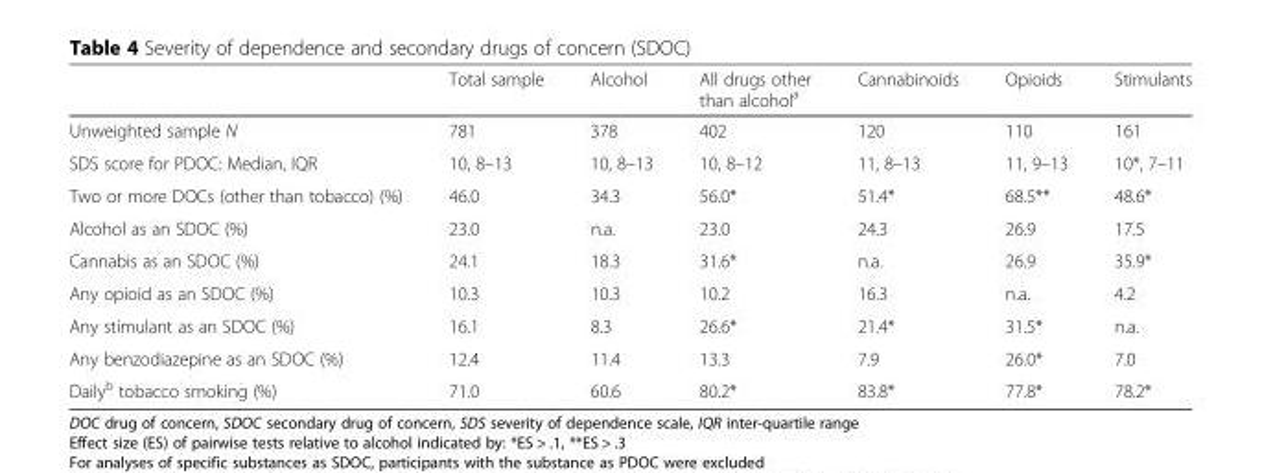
<table><thead><tr><td></td><td>Total sample</td><td>Alcohol</td><td>All drugs other than alcohol<sup>a</sup></td><td>Cannabinoids</td><td>Opioids</td><td>Stimulants</td></tr></thead><tbody><tr><td>Unweighted sample N</td><td>781</td><td>378</td><td>402</td><td>120</td><td>110</td><td>161</td></tr><tr><td>SDS score for PDOC: Median, IQR</td><td>10, 8–13</td><td>10, 8–13</td><td>10, 8–12</td><td>11, 8–13</td><td>11, 9–13</td><td>10*, 7–11</td></tr><tr><td>Two or more DOCs (other than tobacco) (%)</td><td>46.0</td><td>34.3</td><td>56.0*</td><td>51.4*</td><td>68.5**</td><td>48.6*</td></tr><tr><td>Alcohol as an SDOC (%)</td><td>23.0</td><td>n.a.</td><td>23.0</td><td>24.3</td><td>26.9</td><td>17.5</td></tr><tr><td>Cannabis as an SDOC (%)</td><td>24.1</td><td>18.3</td><td>31.6*</td><td>n.a.</td><td>26.9</td><td>35.9*</td></tr><tr><td>Any opioid as an SDOC (%)</td><td>10.3</td><td>10.3</td><td>10.2</td><td>16.3</td><td>n.a.</td><td>4.2</td></tr><tr><td>Any stimulant as an SDOC (%)</td><td>16.1</td><td>8.3</td><td>26.6*</td><td>21.4*</td><td>31.5*</td><td>n.a.</td></tr><tr><td>Any benzodiazepine as an SDOC (%)</td><td>12.4</td><td>11.4</td><td>13.3</td><td>7.9</td><td>26.0*</td><td>7.0</td></tr><tr><td>Daily<sup>b</sup> tobacco smoking (%)</td><td>71.0</td><td>60.6</td><td>80.2*</td><td>83.8*</td><td>77.8*</td><td>78.2*</td></tr></tbody></table>